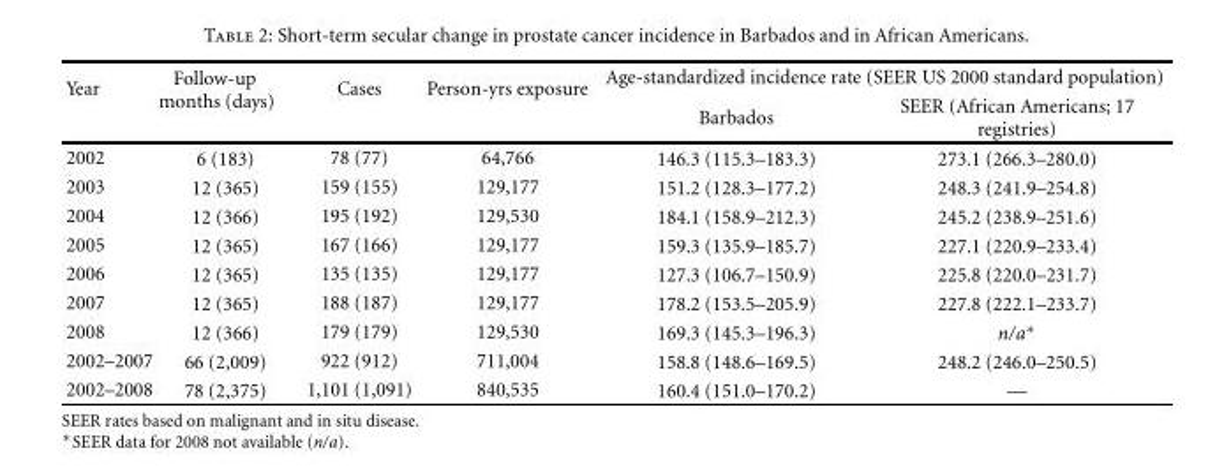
<table><thead><tr><td rowspan="2">Year</td><td rowspan="2">Follow-up months (days)</td><td rowspan="2">Cases</td><td rowspan="2">Person-yrs exposure</td><td colspan="2">Age-standardized incidence rate (SEER US 2000 standard population)</td></tr><tr><td>Barbados</td><td>SEER (African Americans; 17 registries)</td></tr></thead><tbody><tr><td>2002</td><td>6 (183)</td><td>78 (77)</td><td>64,766</td><td>146.3 (115.3–183.3)</td><td>273.1 (266.3–280.0)</td></tr><tr><td>2003</td><td>12 (365)</td><td>159 (155)</td><td>129,177</td><td>151.2 (128.3–177.2)</td><td>248.3 (241.9–254.8)</td></tr><tr><td>2004</td><td>12 (366)</td><td>195 (192)</td><td>129,530</td><td>184.1 (158.9–212.3)</td><td>245.2 (238.9–251.6)</td></tr><tr><td>2005</td><td>12 (365)</td><td>167 (166)</td><td>129,177</td><td>159.3 (135.9–185.7)</td><td>227.1 (220.9–233.4)</td></tr><tr><td>2006</td><td>12 (365)</td><td>135 (135)</td><td>129,177</td><td>127.3 (106.7–150.9)</td><td>225.8 (220.0–231.7)</td></tr><tr><td>2007</td><td>12 (365)</td><td>188 (187)</td><td>129,177</td><td>178.2 (153.5–205.9)</td><td>227.8 (222.1–233.7)</td></tr><tr><td>2008</td><td>12 (366)</td><td>179 (179)</td><td>129,530</td><td>169.3 (145.3–196.3)</td><td>n/a∗</td></tr><tr><td>2002–2007</td><td>66 (2,009)</td><td>922 (912)</td><td>711,004</td><td>158.8 (148.6–169.5)</td><td>248.2 (246.0–250.5)</td></tr><tr><td>2002–2008</td><td>78 (2,375)</td><td>1,101 (1,091)</td><td>840,535</td><td>160.4 (151.0–170.2)</td><td>—</td></tr></tbody></table>